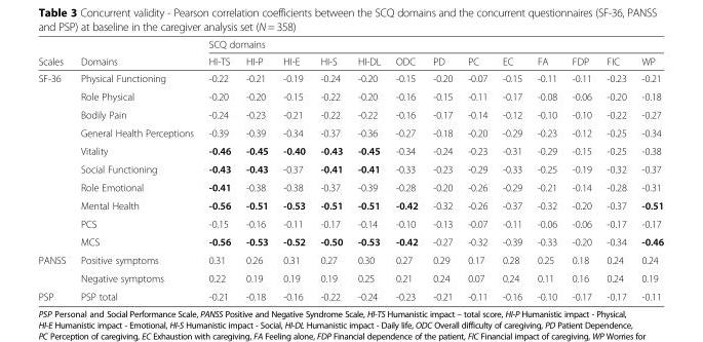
<table><thead><tr><td rowspan="2">Scales</td><td rowspan="2">Domains</td><td colspan="13">SCQ domains</td></tr><tr><td>HI-TS</td><td>HI-P</td><td>HI-E</td><td>HI-S</td><td>HI-DL</td><td>ODC</td><td>PD</td><td>PC</td><td>EC</td><td>FA</td><td>FDP</td><td>FIC</td><td>WP</td></tr></thead><tbody><tr><td rowspan="10">SF-36</td><td>Physical Functioning</td><td>-0.22</td><td>-0.21</td><td>-0.19</td><td>-0.24</td><td>-0.20</td><td>-0.15</td><td>-0.20</td><td>-0.07</td><td>-0.15</td><td>-0.11</td><td>-0.11</td><td>-0.23</td><td>-0.21</td></tr><tr><td>Role Physical</td><td>-0.20</td><td>-0.20</td><td>-0.15</td><td>-0.22</td><td>-0.20</td><td>-0.16</td><td>-0.15</td><td>-0.11</td><td>-0.17</td><td>-0.08</td><td>-0.06</td><td>-0.20</td><td>-0.18</td></tr><tr><td>Bodily Pain</td><td>-0.24</td><td>-0.23</td><td>-0.21</td><td>-0.22</td><td>-0.22</td><td>-0.16</td><td>-0.17</td><td>-0.14</td><td>-0.12</td><td>-0.10</td><td>-0.10</td><td>-0.22</td><td>-0.27</td></tr><tr><td>General Health Perceptions</td><td>-0.39</td><td>-0.39</td><td>-0.34</td><td>-0.37</td><td>-0.36</td><td>-0.27</td><td>-0.18</td><td>-0.20</td><td>-0.29</td><td>-0.23</td><td>-0.12</td><td>-0.25</td><td>-0.34</td></tr><tr><td>Vitality</td><td>-0.46</td><td>-0.45</td><td>-0.40</td><td>-0.43</td><td>-0.45</td><td>-0.34</td><td>-0.24</td><td>-0.23</td><td>-0.31</td><td>-0.29</td><td>-0.15</td><td>-0.25</td><td>-0.38</td></tr><tr><td>Social Functioning</td><td>-0.43</td><td>-0.43</td><td>-0.37</td><td>-0.41</td><td>-0.41</td><td>-0.33</td><td>-0.23</td><td>-0.29</td><td>-0.33</td><td>-0.25</td><td>-0.19</td><td>-0.32</td><td>-0.37</td></tr><tr><td>Role Emotional</td><td>-0.41</td><td>-0.38</td><td>-0.38</td><td>-0.37</td><td>-0.39</td><td>-0.28</td><td>-0.20</td><td>-0.26</td><td>-0.29</td><td>-0.21</td><td>-0.14</td><td>-0.28</td><td>-0.31</td></tr><tr><td>Mental Health</td><td>-0.56</td><td>-0.51</td><td>-0.53</td><td>-0.51</td><td>-0.51</td><td>-0.42</td><td>-0.32</td><td>-0.26</td><td>-0.37</td><td>-0.32</td><td>-0.20</td><td>-0.37</td><td>-0.51</td></tr><tr><td>PCS</td><td>-0.15</td><td>-0.16</td><td>-0.11</td><td>-0.17</td><td>-0.14</td><td>-0.10</td><td>-0.13</td><td>-0.07</td><td>-0.11</td><td>-0.06</td><td>-0.06</td><td>-0.17</td><td>-0.17</td></tr><tr><td>MCS</td><td>-0.56</td><td>-0.53</td><td>-0.52</td><td>-0.50</td><td>-0.53</td><td>-0.42</td><td>-0.27</td><td>-0.32</td><td>-0.39</td><td>-0.33</td><td>-0.20</td><td>-0.34</td><td>-0.46</td></tr><tr><td rowspan="2">PANSS</td><td>Positive symptoms</td><td>0.31</td><td>0.26</td><td>0.31</td><td>0.27</td><td>0.30</td><td>0.27</td><td>0.29</td><td>0.17</td><td>0.28</td><td>0.25</td><td>0.18</td><td>0.24</td><td>0.24</td></tr><tr><td>Negative symptoms</td><td>0.22</td><td>0.19</td><td>0.19</td><td>0.19</td><td>0.25</td><td>0.21</td><td>0.24</td><td>0.07</td><td>0.24</td><td>0.11</td><td>0.16</td><td>0.24</td><td>0.19</td></tr><tr><td>PSP</td><td>PSP total</td><td>-0.21</td><td>-0.18</td><td>-0.16</td><td>-0.22</td><td>-0.24</td><td>-0.23</td><td>-0.21</td><td>-0.11</td><td>-0.16</td><td>-0.10</td><td>-0.17</td><td>-0.17</td><td>-0.11</td></tr></tbody></table>